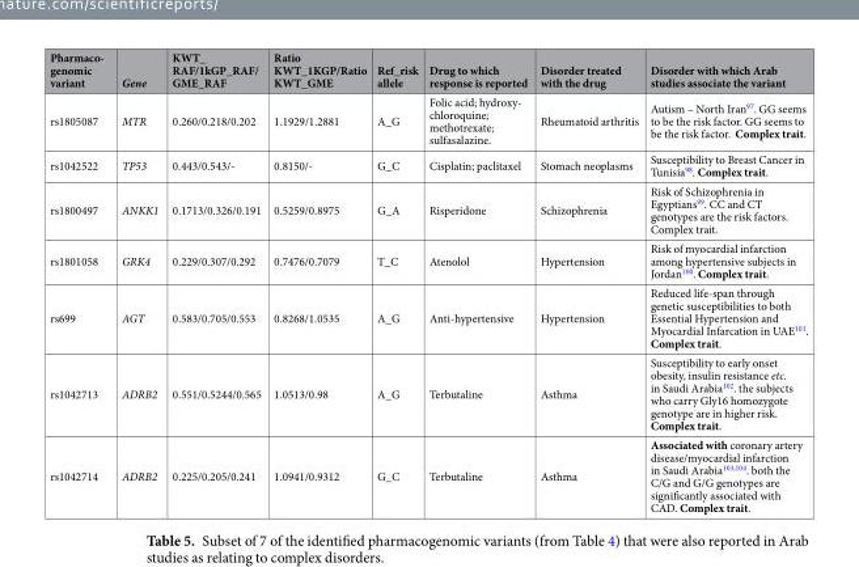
<table><thead><tr><td>Pharmaco- genomic variant</td><td>Gene</td><td>KWT_ RAF/1kGP_RAF/ GME_RAF</td><td>Ratio KWT_1KGP/Ratio KWT_GME</td><td>Ref_risk allele</td><td>Drug to which response is reported</td><td>Disorder treated with the drug</td><td>Disorder with which Arab studies associate the variant</td></tr></thead><tbody><tr><td>rs1805087</td><td>MTR</td><td>0.260/0.218/0.202</td><td>1.1929/1.2881</td><td>A_G</td><td>Folic acid; hydroxy- chloroquine; methotrexate; sulfasalazine.</td><td>Rheumatoid arthritis</td><td>Autism – North Iran<sup>97</sup>. GG seems to be the risk factor. GG seems to be the risk factor. Complex trait.</td></tr><tr><td>rs1042522</td><td>TP53</td><td>0.443/0.543/-</td><td>0.8150/-</td><td>G_C</td><td>Cisplatin; paclitaxel</td><td>Stomach neoplasms</td><td>Susceptibility to Breast Cancer in Tunisia<sup>98</sup>. Complex trait.</td></tr><tr><td>rs1800497</td><td>ANKK1</td><td>0.1713/0.326/0.191</td><td>0.5259/0.8975</td><td>G_A</td><td>Risperidone</td><td>Schizophrenia</td><td>Risk of Schizophrenia in Egyptians<sup>99</sup>. CC and CT genotypes are the risk factors. Complex trait.</td></tr><tr><td>rs1801058</td><td>GRK4</td><td>0.229/0.307/0.292</td><td>0.7476/0.7079</td><td>T_C</td><td>Atenolol</td><td>Hypertension</td><td>Risk of myocardial infarction among hypertensive subjects in Jordan<sup>100</sup>. Complex trait.</td></tr><tr><td>rs699</td><td>AGT</td><td>0.583/0.705/0.553</td><td>0.8268/1.0535</td><td>A_G</td><td>Anti-hypertensive</td><td>Hypertension</td><td>Reduced life-span through genetic susceptibilities to both Essential Hypertension and Myocardial Infarcation in UAE<sup>101</sup>. Complex trait.</td></tr><tr><td>rs1042713</td><td>ADRB2</td><td>0.551/0.5244/0.565</td><td>1.0513/0.98</td><td>A_G</td><td>Terbutaline</td><td>Asthma</td><td>Susceptibility to early onset obesity, insulin resistance etc. in Saudi Arabia<sup>102</sup>. the subjects who carry Gly16 homozygote genotype are in higher risk. Complex trait.</td></tr><tr><td>rs1042714</td><td>ADRB2</td><td>0.225/0.205/0.241</td><td>1.0941/0.9312</td><td>G_C</td><td>Terbutaline</td><td>Asthma</td><td>Associated with coronary artery disease/myocardial infarction in Saudi Arabia<sup>103,104</sup>. both the C/G and G/G genotypes are significantly associated with CAD. Complex trait.</td></tr></tbody></table>